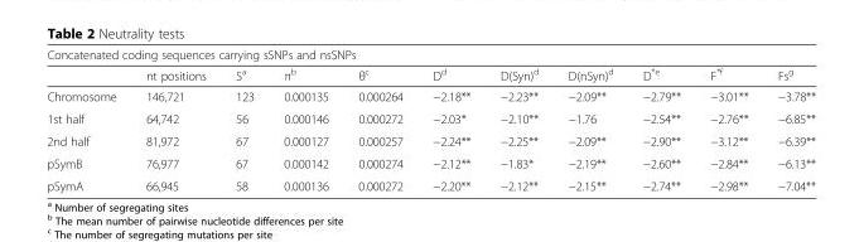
<table><thead><tr><td colspan="11">Concatenated coding sequences carrying sSNPs and nsSNPs</td></tr><tr><td></td><td>nt positions</td><td>S<sup>a</sup></td><td>π<sup>b</sup></td><td>θ<sup>c</sup></td><td>D<sup>d</sup></td><td>D(Syn)<sup>d</sup></td><td>D(nSyn)<sup>d</sup></td><td>D<sup>*e</sup></td><td>F<sup>*f</sup></td><td>Fs<sup>g</sup></td></tr></thead><tbody><tr><td>Chromosome</td><td>146,721</td><td>123</td><td>0.000135</td><td>0.000264</td><td>−2.18**</td><td>−2.23**</td><td>−2.09**</td><td>−2.79**</td><td>−3.01**</td><td>−3.78**</td></tr><tr><td>1st half</td><td>64,742</td><td>56</td><td>0.000146</td><td>0.000272</td><td>−2.03*</td><td>−2.10**</td><td>−1.76</td><td>−2.54**</td><td>−2.76**</td><td>−6.85**</td></tr><tr><td>2nd half</td><td>81,972</td><td>67</td><td>0.000127</td><td>0.000257</td><td>−2.24**</td><td>−2.25**</td><td>−2.09**</td><td>−2.90**</td><td>−3.12**</td><td>−6.39**</td></tr><tr><td>pSymB</td><td>76,977</td><td>67</td><td>0.000142</td><td>0.000274</td><td>−2.12**</td><td>−1.83*</td><td>−2.19**</td><td>−2.60**</td><td>−2.84**</td><td>−6.13**</td></tr><tr><td>pSymA</td><td>66,945</td><td>58</td><td>0.000136</td><td>0.000272</td><td>−2.20**</td><td>−2.12**</td><td>−2.15**</td><td>−2.74**</td><td>−2.98**</td><td>−7.04**</td></tr></tbody></table>